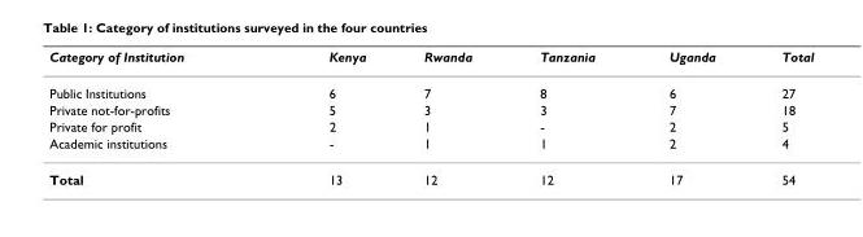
<table><thead><tr><td>Category of Institution</td><td>Kenya</td><td>Rwanda</td><td>Tanzania</td><td>Uganda</td><td>Total</td></tr></thead><tbody><tr><td>Public Institutions</td><td>6</td><td>7</td><td>8</td><td>6</td><td>27</td></tr><tr><td>Private not-for-profits</td><td>5</td><td>3</td><td>3</td><td>7</td><td>18</td></tr><tr><td>Private for profit</td><td>2</td><td>1</td><td>-</td><td>2</td><td>5</td></tr><tr><td>Academic institutions</td><td>-</td><td>1</td><td>1</td><td>2</td><td>4</td></tr><tr><td>Total</td><td>13</td><td>12</td><td>12</td><td>17</td><td>54</td></tr></tbody></table>